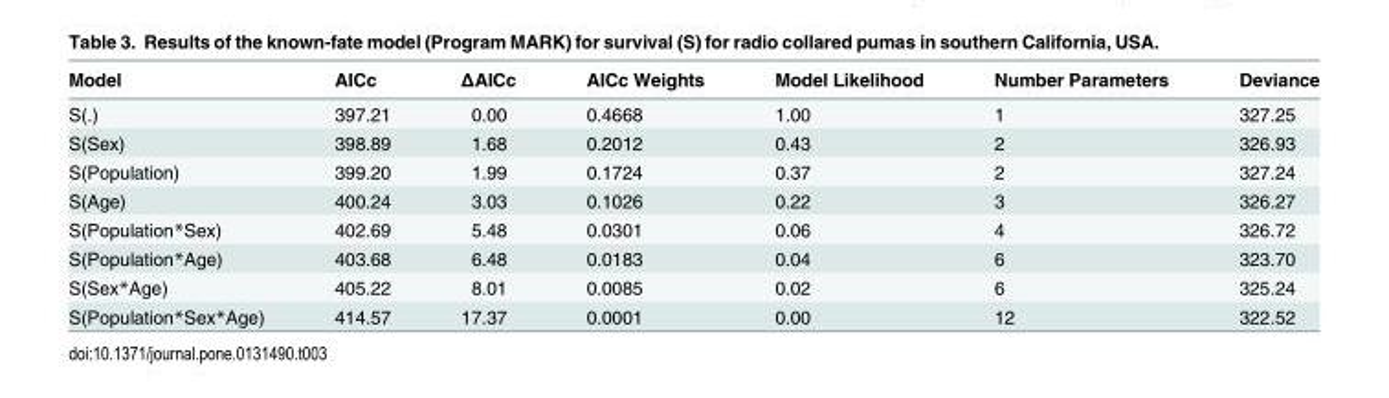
<table><thead><tr><td>Model</td><td>AICc</td><td>ΔAICc</td><td>AICc Weights</td><td>Model Likelihood</td><td>Number Parameters</td><td>Deviance</td></tr></thead><tbody><tr><td>S(.)</td><td>397.21</td><td>0.00</td><td>0.4668</td><td>1.00</td><td>1</td><td>327.25</td></tr><tr><td>S(Sex)</td><td>398.89</td><td>1.68</td><td>0.2012</td><td>0.43</td><td>2</td><td>326.93</td></tr><tr><td>S(Population)</td><td>399.20</td><td>1.99</td><td>0.1724</td><td>0.37</td><td>2</td><td>327.24</td></tr><tr><td>S(Age)</td><td>400.24</td><td>3.03</td><td>0.1026</td><td>0.22</td><td>3</td><td>326.27</td></tr><tr><td>S(Population*Sex)</td><td>402.69</td><td>5.48</td><td>0.0301</td><td>0.06</td><td>4</td><td>326.72</td></tr><tr><td>S(Population*Age)</td><td>403.68</td><td>6.48</td><td>0.0183</td><td>0.04</td><td>6</td><td>323.70</td></tr><tr><td>S(Sex*Age)</td><td>405.22</td><td>8.01</td><td>0.0085</td><td>0.02</td><td>6</td><td>325.24</td></tr><tr><td>S(Population*Sex*Age)</td><td>414.57</td><td>17.37</td><td>0.0001</td><td>0.00</td><td>12</td><td>322.52</td></tr></tbody></table>